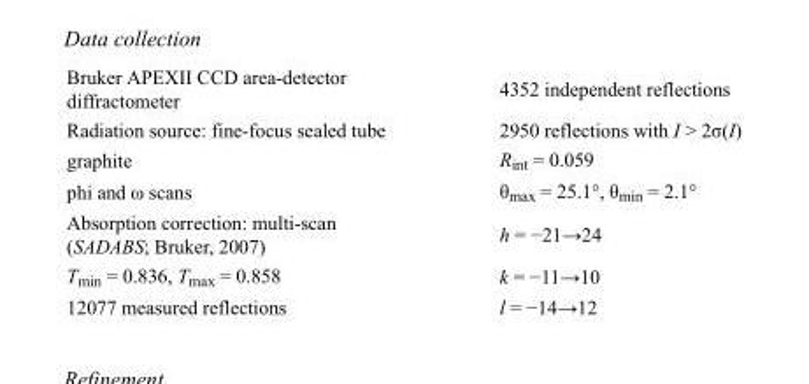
<table><tbody><tr><td>Bruker APEXII CCD area-detector diffractometer</td><td>4352 independent reflections</td></tr><tr><td>Radiation source: fine-focus sealed tube</td><td>2950 reflections with I &gt; 2σ(I)</td></tr><tr><td>graphite</td><td>R<sub>int</sub> = 0.059</td></tr><tr><td>phi and ω scans</td><td>θ<sub>max</sub> = 25.1°, θ<sub>min</sub> = 2.1°</td></tr><tr><td>Absorption correction: multi-scan (SADABS; Bruker, 2007)</td><td>h = −21→24</td></tr><tr><td>T<sub>min</sub> = 0.836, T<sub>max</sub> = 0.858</td><td>k = −11→10</td></tr><tr><td>12077 measured reflections</td><td>l = −14→12</td></tr></tbody></table>